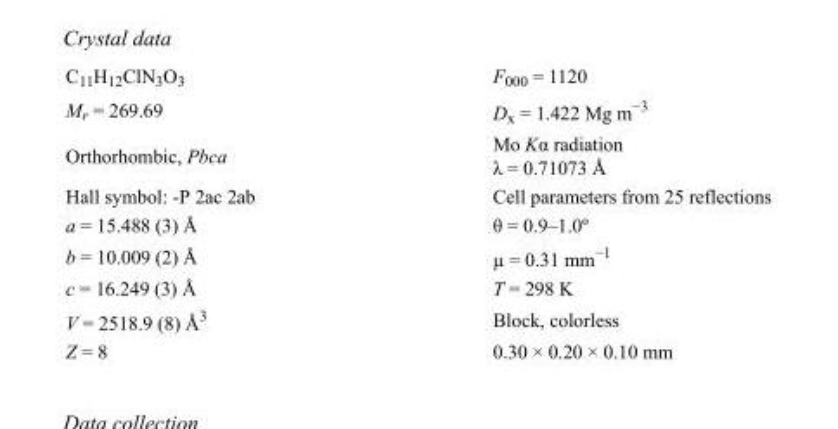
<table><tbody><tr><td>C<sub>11</sub>H<sub>12</sub>ClN<sub>3</sub>O<sub>3</sub></td><td>F000 = 1120</td></tr><tr><td>M<sub>r</sub> = 269.69</td><td>D<sub>x</sub> = 1.422 Mg m<sup>−3</sup></td></tr><tr><td>Orthorhombic, Pbca</td><td>Mo Kα radiation λ = 0.71073 Å</td></tr><tr><td>Hall symbol: -P 2ac 2ab</td><td>Cell parameters from 25 reflections</td></tr><tr><td>a = 15.488 (3) Å</td><td>θ = 0.9–1.0º</td></tr><tr><td>b = 10.009 (2) Å</td><td>µ = 0.31 mm<sup>−1</sup></td></tr><tr><td>c = 16.249 (3) Å</td><td>T = 298 K</td></tr><tr><td>V = 2518.9 (8) Å<sup>3</sup></td><td>Block, colorless</td></tr><tr><td>Z = 8</td><td>0.30 × 0.20 × 0.10 mm</td></tr></tbody></table>